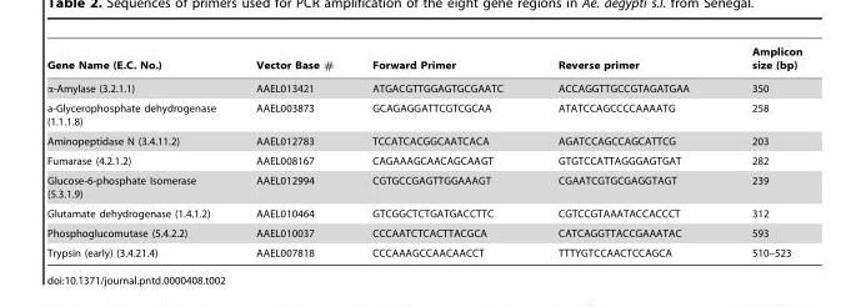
<table><thead><tr><td>Gene Name (E.C. No.)</td><td>Vector Base #</td><td>Forward Primer</td><td>Reverse primer</td><td>Amplicon size (bp)</td></tr></thead><tbody><tr><td>α-Amylase (3.2.1.1)</td><td>AAEL013421</td><td>ATGACGTTGGAGTGCGAATC</td><td>ACCAGGTTGCCGTAGATGAA</td><td>350</td></tr><tr><td>a-Glycerophosphate dehydrogenase (1.1.1.8)</td><td>AAEL003873</td><td>GCAGAGGATTCGTCGCAA</td><td>ATATCCAGCCCCAAAATG</td><td>258</td></tr><tr><td>Aminopeptidase N (3.4.11.2)</td><td>AAEL012783</td><td>TCCATCACGGCAATCACA</td><td>AGATCCAGCCAGCATTCG</td><td>203</td></tr><tr><td>Fumarase (4.2.1.2)</td><td>AAEL008167</td><td>CAGAAAGCAACAGCAAGT</td><td>GTGTCCATTAGGGAGTGAT</td><td>282</td></tr><tr><td>Glucose-6-phosphate Isomerase (5.3.1.9)</td><td>AAEL012994</td><td>CGTGCCGAGTTGGAAAGT</td><td>CGAATCGTGCGAGGTAGT</td><td>239</td></tr><tr><td>Glutamate dehydrogenase (1.4.1.2)</td><td>AAEL010464</td><td>GTCGGCTCTGATGACCTTC</td><td>CGTCCGTAAATACCACCCT</td><td>312</td></tr><tr><td>Phosphoglucomutase (5.4.2.2)</td><td>AAEL010037</td><td>CCCAATCTCACTTACGCA</td><td>CATCAGGTTACCGAAATAC</td><td>593</td></tr><tr><td>Trypsin (early) (3.4.21.4)</td><td>AAEL007818</td><td>CCCAAAGCCAACAACCT</td><td>TTTYGTCCAACTCCAGCA</td><td>510–523</td></tr></tbody></table>